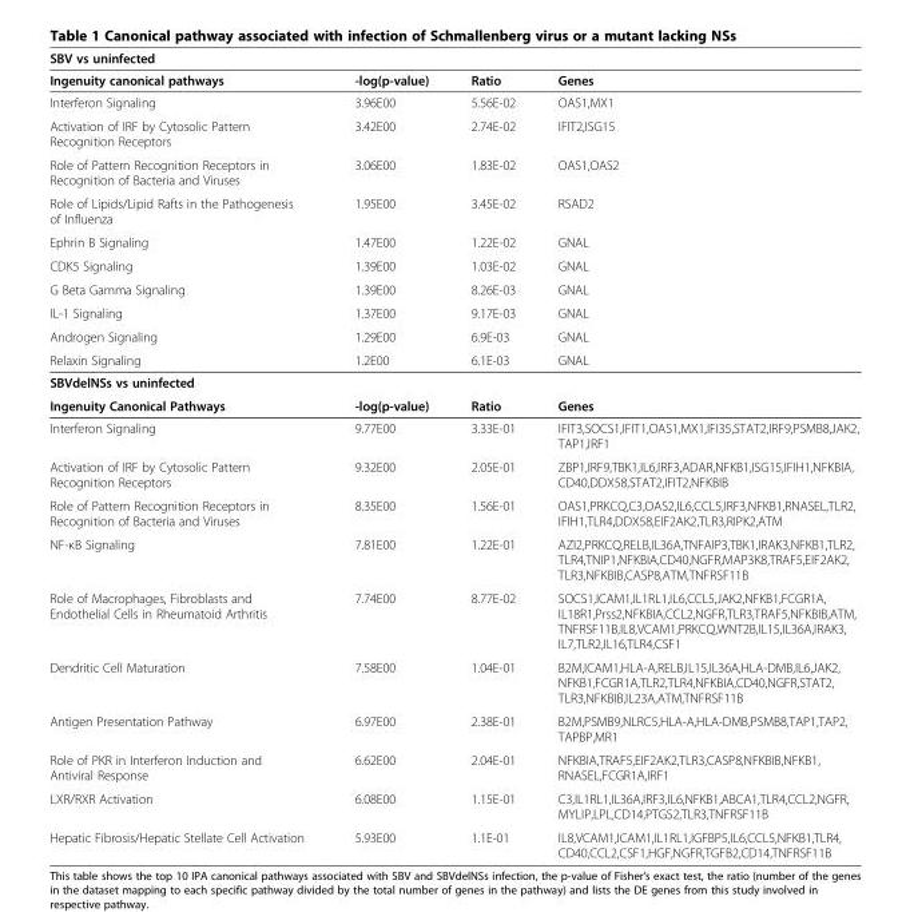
<table><thead><tr><td colspan="4">SBV vs uninfected</td></tr><tr><td>Ingenuity canonical pathways</td><td>-log(p-value)</td><td>Ratio</td><td>Genes</td></tr></thead><tbody><tr><td>Interferon Signaling</td><td>3.96E00</td><td>5.56E-02</td><td>OAS1,MX1</td></tr><tr><td>Activation of IRF by Cytosolic Pattern Recognition Receptors</td><td>3.42E00</td><td>2.74E-02</td><td>IFIT2,ISG15</td></tr><tr><td>Role of Pattern Recognition Receptors in Recognition of Bacteria and Viruses</td><td>3.06E00</td><td>1.83E-02</td><td>OAS1,OAS2</td></tr><tr><td>Role of Lipids/Lipid Rafts in the Pathogenesis of Influenza</td><td>1.95E00</td><td>3.45E-02</td><td>RSAD2</td></tr><tr><td>Ephrin B Signaling</td><td>1.47E00</td><td>1.22E-02</td><td>GNAL</td></tr><tr><td>CDK5 Signaling</td><td>1.39E00</td><td>1.03E-02</td><td>GNAL</td></tr><tr><td>G Beta Gamma Signaling</td><td>1.39E00</td><td>8.26E-03</td><td>GNAL</td></tr><tr><td>IL-1 Signaling</td><td>1.37E00</td><td>9.17E-03</td><td>GNAL</td></tr><tr><td>Androgen Signaling</td><td>1.29E00</td><td>6.9E-03</td><td>GNAL</td></tr><tr><td>Relaxin Signaling</td><td>1.2E00</td><td>6.1E-03</td><td>GNAL</td></tr><tr><td colspan="4">SBVdelNSs vs uninfected</td></tr><tr><td>Ingenuity Canonical Pathways</td><td>-log(p-value)</td><td>Ratio</td><td>Genes</td></tr><tr><td>Interferon Signaling</td><td>9.77E00</td><td>3.33E-01</td><td>IFIT3,SOCS1,IFIT1,OAS1,MX1,IFI35,STAT2,IRF9,PSMB8,JAK2, TAP1,IRF1</td></tr><tr><td>Activation of IRF by Cytosolic Pattern Recognition Receptors</td><td>9.32E00</td><td>2.05E-01</td><td>ZBP1,IRF9,TBK1,IL6,IRF3,ADAR,NFKB1,ISG15,IFIH1,NFKBIA, CD40,DDX58,STAT2,IFIT2,NFKBIB</td></tr><tr><td>Role of Pattern Recognition Receptors in Recognition of Bacteria and Viruses</td><td>8.35E00</td><td>1.56E-01</td><td>OAS1,PRKCQ,C3,OAS2,IL6,CCL5,IRF3,NFKB1,RNASEL,TLR2, IFIH1,TLR4,DDX58,EIF2AK2,TLR3,RIPK2,ATM</td></tr><tr><td>NF-κB Signaling</td><td>7.81E00</td><td>1.22E-01</td><td>AZI2,PRKCQ,RELB,IL36A,TNFAIP3,TBK1,IRAK3,NFKB1,TLR2, TLR4,TNIP1,NFKBIA,CD40,NGFR,MAP3K8,TRAF5,EIF2AK2, TLR3,NFKBIB,CASP8,ATM,TNFRSF11B</td></tr><tr><td>Role of Macrophages, Fibroblasts and Endothelial Cells in Rheumatoid Arthritis</td><td>7.74E00</td><td>8.77E-02</td><td>SOCS1,ICAM1,IL1RL1,IL6,CCL5,JAK2,NFKB1,FCGR1A, IL18R1,Prss2,NFKBIA,CCL2,NGFR,TLR3,TRAF5,NFKBIB,ATM, TNFRSF11B,IL8,VCAM1,PRKCQ,WNT2B,IL15,IL36A,IRAK3, IL7,TLR2,IL16,TLR4,CSF1</td></tr><tr><td>Dendritic Cell Maturation</td><td>7.58E00</td><td>1.04E-01</td><td>B2M,ICAM1,HLA-A,RELB,IL15,IL36A,HLA-DMB,IL6,JAK2, NFKB1,FCGR1A,TLR2,TLR4,NFKBIA,CD40,NGFR,STAT2, TLR3,NFKBIB,IL23A,ATM,TNFRSF11B</td></tr><tr><td>Antigen Presentation Pathway</td><td>6.97E00</td><td>2.38E-01</td><td>B2M,PSMB9,NLRC5,HLA-A,HLA-DMB,PSMB8,TAP1,TAP2, TAPBP,MR1</td></tr><tr><td>Role of PKR in Interferon Induction and Antiviral Response</td><td>6.62E00</td><td>2.04E-01</td><td>NFKBIA,TRAF5,EIF2AK2,TLR3,CASP8,NFKBIB,NFKB1, RNASEL,FCGR1A,IRF1</td></tr><tr><td>LXR/RXR Activation</td><td>6.08E00</td><td>1.15E-01</td><td>C3,IL1RL1,IL36A,IRF3,IL6,NFKB1,ABCA1,TLR4,CCL2,NGFR, MYLIP,LPL,CD14,PTGS2,TLR3,TNFRSF11B</td></tr><tr><td>Hepatic Fibrosis/Hepatic Stellate Cell Activation</td><td>5.93E00</td><td>1.1E-01</td><td>IL8,VCAM1,ICAM1,IL1RL1,IGFBP5,IL6,CCL5,NFKB1,TLR4, CD40,CCL2,CSF1,HGF,NGFR,TGFB2,CD14,TNFRSF11B</td></tr></tbody></table>